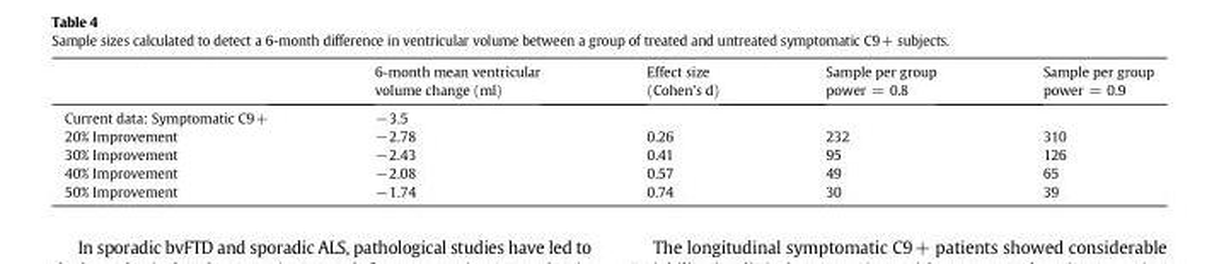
<table><thead><tr><td></td><td>6-month mean ventricular volume change (ml)</td><td>Effect size (Cohen&#x27;s d)</td><td>Sample per group power = 0.8</td><td>Sample per group power = 0.9</td></tr></thead><tbody><tr><td>Current data: Symptomatic C9+</td><td>−3.5</td><td></td><td></td><td></td></tr><tr><td>20% Improvement</td><td>−2.78</td><td>0.26</td><td>232</td><td>310</td></tr><tr><td>30% Improvement</td><td>−2.43</td><td>0.41</td><td>95</td><td>126</td></tr><tr><td>40% Improvement</td><td>−2.08</td><td>0.57</td><td>49</td><td>65</td></tr><tr><td>50% Improvement</td><td>−1.74</td><td>0.74</td><td>30</td><td>39</td></tr></tbody></table>